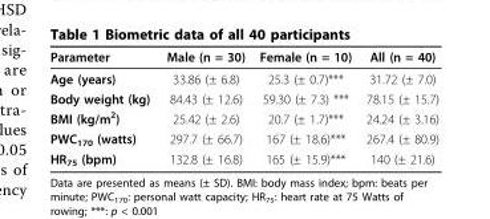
<table><thead><tr><td>Parameter</td><td>Male (n = 30)</td><td>Female (n = 10)</td><td>All (n = 40)</td></tr></thead><tbody><tr><td>Age (years)</td><td>33.86 (± 6.8)</td><td>25.3 (± 0.7)***</td><td>31.72 (± 7.0)</td></tr><tr><td>Body weight (kg)</td><td>84.43 (± 12.6)</td><td>59.30 (± 7.3) ***</td><td>78.15 (± 15.7)</td></tr><tr><td>BMI (kg/m<sup>2</sup>)</td><td>25.42 (± 2.6)</td><td>20.7 (± 1.7)***</td><td>24.24 (± 3.16)</td></tr><tr><td>PWC<sub>170</sub> (watts)</td><td>297.7 (± 66.7)</td><td>167 (± 18.6)***</td><td>267.4 (± 80.9)</td></tr><tr><td>HR<sub>75</sub> (bpm)</td><td>132.8 (± 16.8)</td><td>165 (± 15.9)***</td><td>140 (± 21.6)</td></tr></tbody></table>